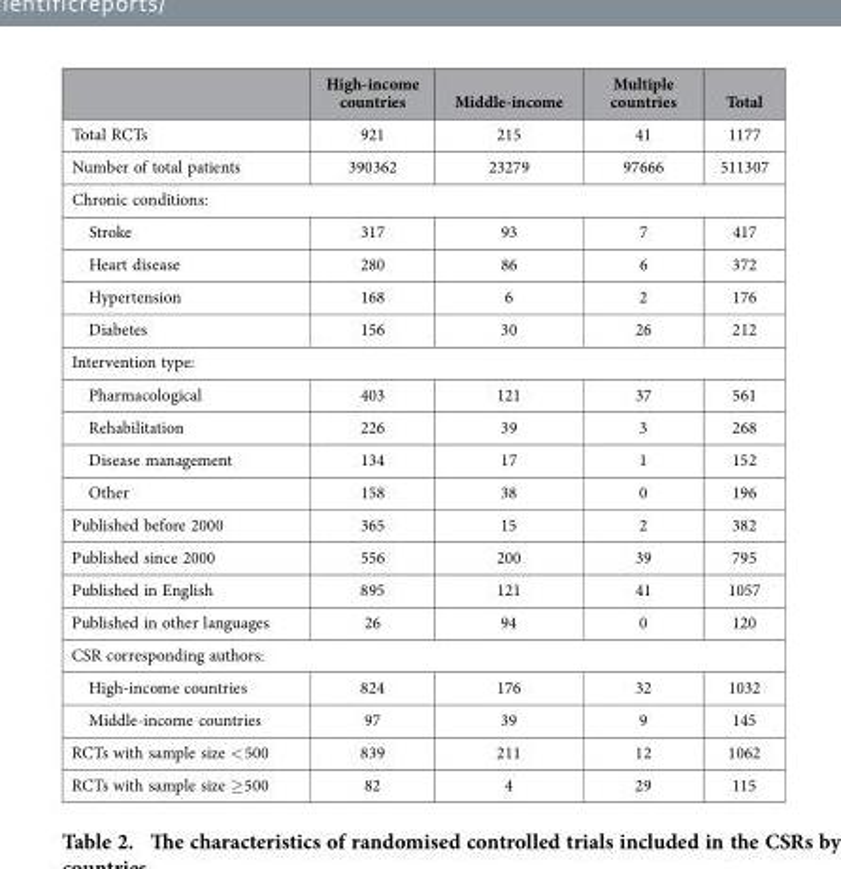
<table><thead><tr><td></td><td>High-income countries</td><td>Middle-income</td><td>Multiple countries</td><td>Total</td></tr></thead><tbody><tr><td>Total RCTs</td><td>921</td><td>215</td><td>41</td><td>1177</td></tr><tr><td>Number of total patients</td><td>390362</td><td>23279</td><td>97666</td><td>511307</td></tr><tr><td colspan="5">Chronic conditions:</td></tr><tr><td>Stroke</td><td>317</td><td>93</td><td>7</td><td>417</td></tr><tr><td>Heart disease</td><td>280</td><td>86</td><td>6</td><td>372</td></tr><tr><td>Hypertension</td><td>168</td><td>6</td><td>2</td><td>176</td></tr><tr><td>Diabetes</td><td>156</td><td>30</td><td>26</td><td>212</td></tr><tr><td colspan="5">Intervention type:</td></tr><tr><td>Pharmacological</td><td>403</td><td>121</td><td>37</td><td>561</td></tr><tr><td>Rehabilitation</td><td>226</td><td>39</td><td>3</td><td>268</td></tr><tr><td>Disease management</td><td>134</td><td>17</td><td>1</td><td>152</td></tr><tr><td>Other</td><td>158</td><td>38</td><td>0</td><td>196</td></tr><tr><td>Published before 2000</td><td>365</td><td>15</td><td>2</td><td>382</td></tr><tr><td>Published since 2000</td><td>556</td><td>200</td><td>39</td><td>795</td></tr><tr><td>Published in English</td><td>895</td><td>121</td><td>41</td><td>1057</td></tr><tr><td>Published in other languages</td><td>26</td><td>94</td><td>0</td><td>120</td></tr><tr><td colspan="5">CSR corresponding authors:</td></tr><tr><td>High-income countries</td><td>824</td><td>176</td><td>32</td><td>1032</td></tr><tr><td>Middle-income countries</td><td>97</td><td>39</td><td>9</td><td>145</td></tr><tr><td>RCTs with sample size &lt; 500</td><td>839</td><td>211</td><td>12</td><td>1062</td></tr><tr><td>RCTs with sample size ≥ 500</td><td>82</td><td>4</td><td>29</td><td>115</td></tr></tbody></table>